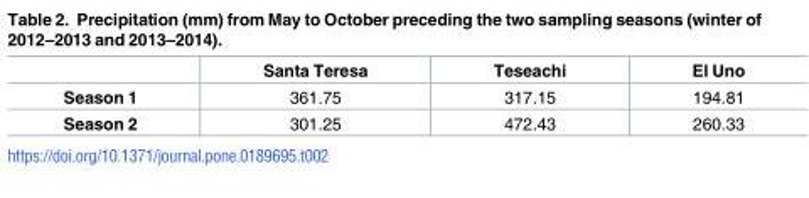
<table><thead><tr><td></td><td>Santa Teresa</td><td>Teseachi</td><td>El Uno</td></tr></thead><tbody><tr><td>Season 1</td><td>361.75</td><td>317.15</td><td>194.81</td></tr><tr><td>Season 2</td><td>301.25</td><td>472.43</td><td>260.33</td></tr></tbody></table>